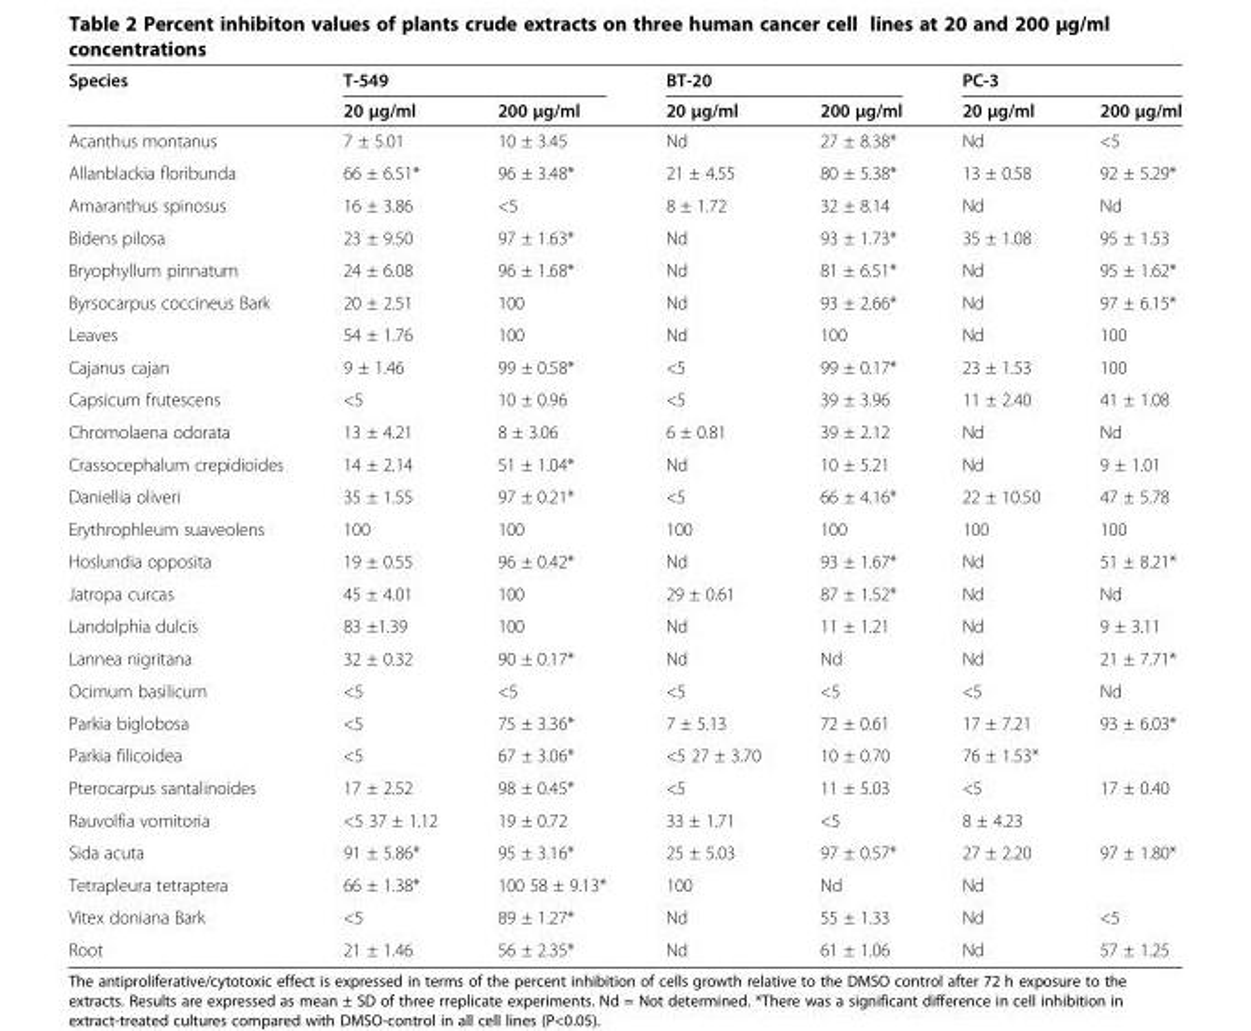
<table><thead><tr><td rowspan="2">Species</td><td colspan="2">T-549</td><td colspan="2">BT-20</td><td colspan="2">PC-3</td></tr><tr><td>20 μg/ml</td><td>200 μg/ml</td><td>20 μg/ml</td><td>200 μg/ml</td><td>20 μg/ml</td><td>200 μg/ml</td></tr></thead><tbody><tr><td>Acanthus montanus</td><td>7 ± 5.01</td><td>10 ± 3.45</td><td>Nd</td><td>27 ± 8.38*</td><td>Nd</td><td>&lt;5</td></tr><tr><td>Allanblackia floribunda</td><td>66 ± 6.51*</td><td>96 ± 3.48*</td><td>21 ± 4.55</td><td>80 ± 5.38*</td><td>13 ± 0.58</td><td>92 ± 5.29*</td></tr><tr><td>Amaranthus spinosus</td><td>16 ± 3.86</td><td>&lt;5</td><td>8 ± 1.72</td><td>32 ± 8.14</td><td>Nd</td><td>Nd</td></tr><tr><td>Bidens pilosa</td><td>23 ± 9.50</td><td>97 ± 1.63*</td><td>Nd</td><td>93 ± 1.73*</td><td>35 ± 1.08</td><td>95 ± 1.53</td></tr><tr><td>Bryophyllum pinnatum</td><td>24 ± 6.08</td><td>96 ± 1.68*</td><td>Nd</td><td>81 ± 6.51*</td><td>Nd</td><td>95 ± 1.62*</td></tr><tr><td>Byrsocarpus coccineus Bark</td><td>20 ± 2.51</td><td>100</td><td>Nd</td><td>93 ± 2.66*</td><td>Nd</td><td>97 ± 6.15*</td></tr><tr><td>Leaves</td><td>54 ± 1.76</td><td>100</td><td>Nd</td><td>100</td><td>Nd</td><td>100</td></tr><tr><td>Cajanus cajan</td><td>9 ± 1.46</td><td>99 ± 0.58*</td><td>&lt;5</td><td>99 ± 0.17*</td><td>23 ± 1.53</td><td>100</td></tr><tr><td>Capsicum frutescens</td><td>&lt;5</td><td>10 ± 0.96</td><td>&lt;5</td><td>39 ± 3.96</td><td>11 ± 2.40</td><td>41 ± 1.08</td></tr><tr><td>Chromolaena odorata</td><td>13 ± 4.21</td><td>8 ± 3.06</td><td>6 ± 0.81</td><td>39 ± 2.12</td><td>Nd</td><td>Nd</td></tr><tr><td>Crassocephalum crepidioides</td><td>14 ± 2.14</td><td>51 ± 1.04*</td><td>Nd</td><td>10 ± 5.21</td><td>Nd</td><td>9 ± 1.01</td></tr><tr><td>Daniellia oliveri</td><td>35 ± 1.55</td><td>97 ± 0.21*</td><td>&lt;5</td><td>66 ± 4.16*</td><td>22 ± 10.50</td><td>47 ± 5.78</td></tr><tr><td>Erythrophleum suaveolens</td><td>100</td><td>100</td><td>100</td><td>100</td><td>100</td><td>100</td></tr><tr><td>Hoslundia opposita</td><td>19 ± 0.55</td><td>96 ± 0.42*</td><td>Nd</td><td>93 ± 1.67*</td><td>Nd</td><td>51 ± 8.21*</td></tr><tr><td>Jatropa curcas</td><td>45 ± 4.01</td><td>100</td><td>29 ± 0.61</td><td>87 ± 1.52*</td><td>Nd</td><td>Nd</td></tr><tr><td>Landolphia dulcis</td><td>83 ±1.39</td><td>100</td><td>Nd</td><td>11 ± 1.21</td><td>Nd</td><td>9 ± 3.11</td></tr><tr><td>Lannea nigritana</td><td>32 ± 0.32</td><td>90 ± 0.17*</td><td>Nd</td><td>Nd</td><td>Nd</td><td>21 ± 7.71*</td></tr><tr><td>Ocimum basilicum</td><td>&lt;5</td><td>&lt;5</td><td>&lt;5</td><td>&lt;5</td><td>&lt;5</td><td>Nd</td></tr><tr><td>Parkia biglobosa</td><td>&lt;5</td><td>75 ± 3.36*</td><td>7 ± 5.13</td><td>72 ± 0.61</td><td>17 ± 7.21</td><td>93 ± 6.03*</td></tr><tr><td>Parkia filicoidea</td><td>&lt;5</td><td>67 ± 3.06*</td><td>&lt;5 27 ± 3.70</td><td>10 ± 0.70</td><td>76 ± 1.53*</td><td></td></tr><tr><td>Pterocarpus santalinoides</td><td>17 ± 2.52</td><td>98 ± 0.45*</td><td>&lt;5</td><td>11 ± 5.03</td><td>&lt;5</td><td>17 ± 0.40</td></tr><tr><td>Rauvolfia vomitoria</td><td>&lt;5 37 ± 1.12</td><td>19 ± 0.72</td><td>33 ± 1.71</td><td>&lt;5</td><td>8 ± 4.23</td><td></td></tr><tr><td>Sida acuta</td><td>91 ± 5.86*</td><td>95 ± 3.16*</td><td>25 ± 5.03</td><td>97 ± 0.57*</td><td>27 ± 2.20</td><td>97 ± 1.80*</td></tr><tr><td>Tetrapleura tetraptera</td><td>66 ± 1.38*</td><td>100 58 ± 9.13*</td><td>100</td><td>Nd</td><td>Nd</td><td></td></tr><tr><td>Vitex doniana Bark</td><td>&lt;5</td><td>89 ± 1.27*</td><td>Nd</td><td>55 ± 1.33</td><td>Nd</td><td>&lt;5</td></tr><tr><td>Root</td><td>21 ± 1.46</td><td>56 ± 2.35*</td><td>Nd</td><td>61 ± 1.06</td><td>Nd</td><td>57 ± 1.25</td></tr></tbody></table>